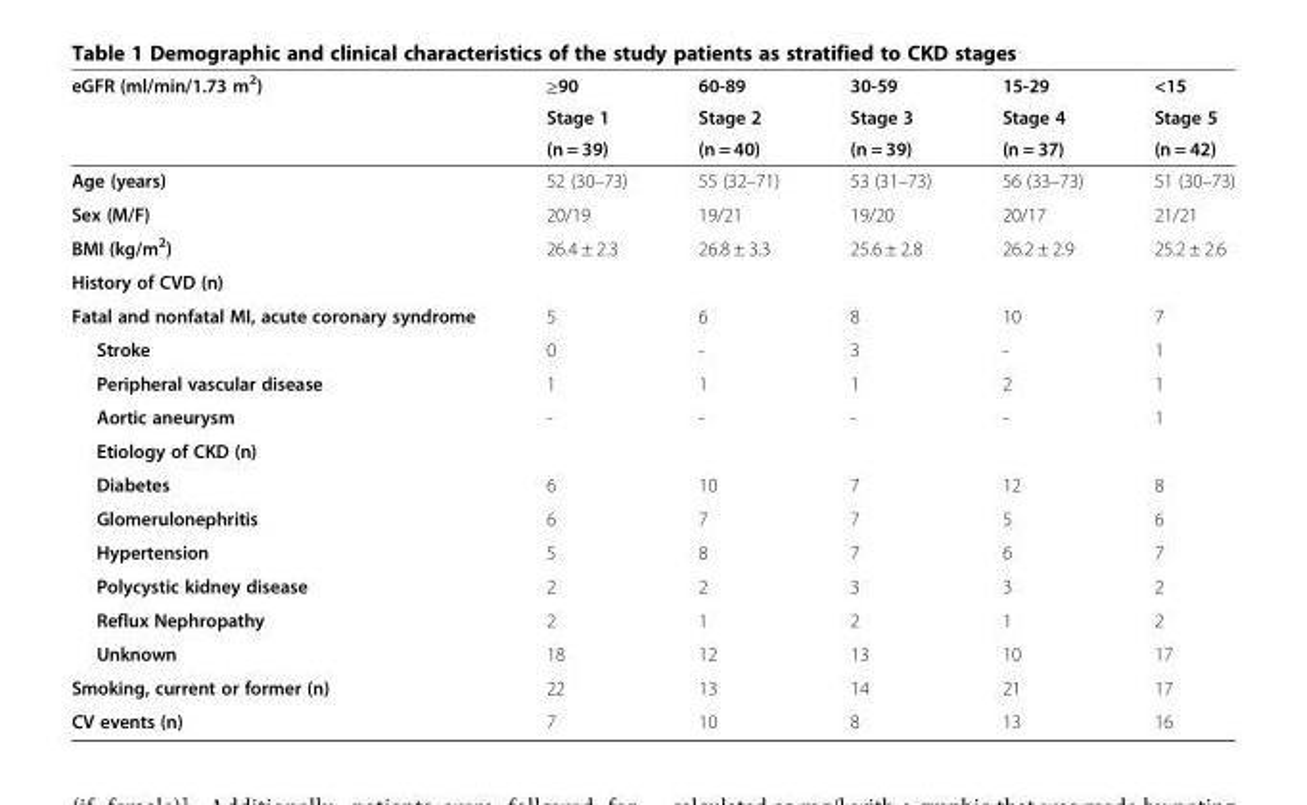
<table><thead><tr><td rowspan="3">eGFR (ml/min/1.73 m<sup>2</sup>)</td><td rowspan="3">≥90 Stage 1 (n = 39)</td><td rowspan="3">60-89 Stage 2 (n = 40)</td><td rowspan="3">30-59 Stage 3 (n = 39)</td><td rowspan="3">15-29 Stage 4 (n = 37)</td><td rowspan="3">&lt;15 Stage 5 (n = 42)</td></tr><tr></tr><tr></tr></thead><tbody><tr><td>Age (years)</td><td>52 (30–73)</td><td>55 (32–71)</td><td>53 (31–73)</td><td>56 (33–73)</td><td>51 (30–73)</td></tr><tr><td>Sex (M/F)</td><td>20/19</td><td>19/21</td><td>19/20</td><td>20/17</td><td>21/21</td></tr><tr><td>BMI (kg/m<sup>2</sup>)</td><td>26.4 ± 2.3</td><td>26.8 ± 3.3</td><td>25.6 ± 2.8</td><td>26.2 ± 2.9</td><td>25.2 ± 2.6</td></tr><tr><td colspan="6">History of CVD (n)</td></tr><tr><td>Fatal and nonfatal MI, acute coronary syndrome</td><td>5</td><td>6</td><td>8</td><td>10</td><td>7</td></tr><tr><td>Stroke</td><td>0</td><td>-</td><td>3</td><td>-</td><td>1</td></tr><tr><td>Peripheral vascular disease</td><td>1</td><td>1</td><td>1</td><td>2</td><td>1</td></tr><tr><td>Aortic aneurysm</td><td>-</td><td>-</td><td>-</td><td>-</td><td>1</td></tr><tr><td colspan="6">Etiology of CKD (n)</td></tr><tr><td>Diabetes</td><td>6</td><td>10</td><td>7</td><td>12</td><td>8</td></tr><tr><td>Glomerulonephritis</td><td>6</td><td>7</td><td>7</td><td>5</td><td>6</td></tr><tr><td>Hypertension</td><td>5</td><td>8</td><td>7</td><td>6</td><td>7</td></tr><tr><td>Polycystic kidney disease</td><td>2</td><td>2</td><td>3</td><td>3</td><td>2</td></tr><tr><td>Reflux Nephropathy</td><td>2</td><td>1</td><td>2</td><td>1</td><td>2</td></tr><tr><td>Unknown</td><td>18</td><td>12</td><td>13</td><td>10</td><td>17</td></tr><tr><td>Smoking, current or former (n)</td><td>22</td><td>13</td><td>14</td><td>21</td><td>17</td></tr><tr><td>CV events (n)</td><td>7</td><td>10</td><td>8</td><td>13</td><td>16</td></tr></tbody></table>